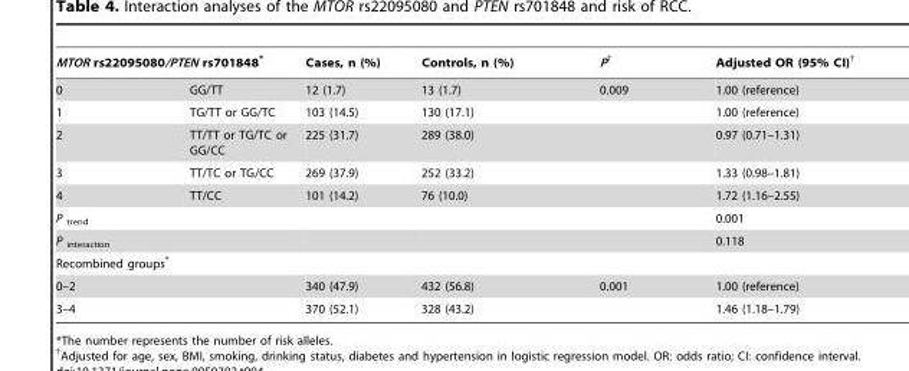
<table><thead><tr><td colspan="2">MTOR rs22095080/PTEN rs701848*</td><td rowspan="2">Cases, n (%) 12 (1.7)</td><td rowspan="2">Controls, n (%) 13 (1.7)</td><td rowspan="2">P† 0.009</td><td rowspan="2">Adjusted OR (95% CI)† 1.00 (reference)</td></tr><tr><td>0</td><td>GG/TT</td></tr></thead><tbody><tr><td>1</td><td>TG/TT or GG/TC</td><td>103 (14.5)</td><td>130 (17.1)</td><td></td><td>1.00 (reference)</td></tr><tr><td>2</td><td>TT/TT or TG/TC or GG/CC</td><td>225 (31.7)</td><td>289 (38.0)</td><td></td><td>0.97 (0.71–1.31)</td></tr><tr><td>3</td><td>TT/TC or TG/CC</td><td>269 (37.9)</td><td>252 (33.2)</td><td></td><td>1.33 (0.98–1.81)</td></tr><tr><td>4</td><td>TT/CC</td><td>101 (14.2)</td><td>76 (10.0)</td><td></td><td>1.72 (1.16–2.55)</td></tr><tr><td colspan="2">P <sub>trend</sub></td><td></td><td></td><td></td><td>0.001</td></tr><tr><td colspan="2">P <sub>interaction</sub></td><td></td><td></td><td></td><td>0.118</td></tr><tr><td colspan="6">Recombined groups*</td></tr><tr><td colspan="2">0–2</td><td>340 (47.9)</td><td>432 (56.8)</td><td>0.001</td><td>1.00 (reference)</td></tr><tr><td colspan="2">3–4</td><td>370 (52.1)</td><td>328 (43.2)</td><td></td><td>1.46 (1.18–1.79)</td></tr></tbody></table>